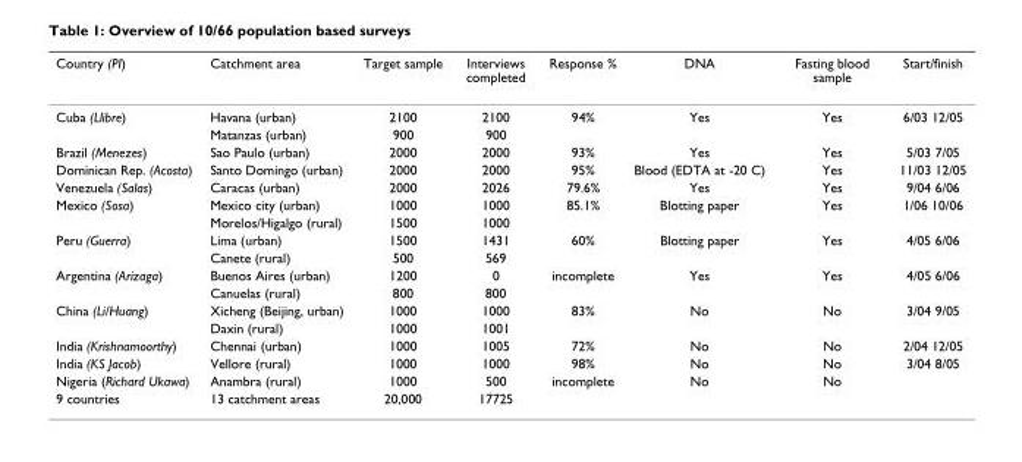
<table><thead><tr><td>Country (PI)</td><td>Catchment area</td><td>Target sample</td><td>Interviews completed</td><td>Response %</td><td>DNA</td><td>Fasting blood sample</td><td>Start/finish</td></tr></thead><tbody><tr><td rowspan="2">Cuba (Llibre)</td><td>Havana (urban)</td><td>2100</td><td>2100</td><td>94%</td><td>Yes</td><td>Yes</td><td>6/03 12/05</td></tr><tr><td>Matanzas (urban)</td><td>900</td><td>900</td><td></td><td></td><td></td><td></td></tr><tr><td>Brazil (Menezes)</td><td>Sao Paulo (urban)</td><td>2000</td><td>2000</td><td>93%</td><td>Yes</td><td>Yes</td><td>5/03 7/05</td></tr><tr><td>Dominican Rep. (Acosta)</td><td>Santo Domingo (urban)</td><td>2000</td><td>2000</td><td>95%</td><td>Blood (EDTA at -20 C)</td><td>Yes</td><td>11/03 12/05</td></tr><tr><td>Venezuela (Salas)</td><td>Caracas (urban)</td><td>2000</td><td>2026</td><td>79.6%</td><td>Yes</td><td>Yes</td><td>9/04 6/06</td></tr><tr><td rowspan="2">Mexico (Sosa)</td><td>Mexico city (urban)</td><td>1000</td><td>1000</td><td>85.1%</td><td>Blotting paper</td><td>Yes</td><td>1/06 10/06</td></tr><tr><td>Morelos/Higalgo (rural)</td><td>1500</td><td>1000</td><td></td><td></td><td></td><td></td></tr><tr><td rowspan="2">Peru (Guerra)</td><td>Lima (urban)</td><td>1500</td><td>1431</td><td>60%</td><td>Blotting paper</td><td>Yes</td><td>4/05 6/06</td></tr><tr><td>Canete (rural)</td><td>500</td><td>569</td><td></td><td></td><td></td><td></td></tr><tr><td rowspan="2">Argentina (Arizaga)</td><td>Buenos Aires (urban)</td><td>1200</td><td>0</td><td>incomplete</td><td>Yes</td><td>Yes</td><td>4/05 6/06</td></tr><tr><td>Canuelas (rural)</td><td>800</td><td>800</td><td></td><td></td><td></td><td></td></tr><tr><td rowspan="2">China (Li/Huang)</td><td>Xicheng (Beijing, urban)</td><td>1000</td><td>1000</td><td>83%</td><td>No</td><td>No</td><td>3/04 9/05</td></tr><tr><td>Daxin (rural)</td><td>1000</td><td>1001</td><td></td><td></td><td></td><td></td></tr><tr><td>India (Krishnamoorthy)</td><td>Chennai (urban)</td><td>1000</td><td>1005</td><td>72%</td><td>No</td><td>No</td><td>2/04 12/05</td></tr><tr><td>India (KS Jacob)</td><td>Vellore (rural)</td><td>1000</td><td>1000</td><td>98%</td><td>No</td><td>No</td><td>3/04 8/05</td></tr><tr><td>Nigeria (Richard Ukawa)</td><td>Anambra (rural)</td><td>1000</td><td>500</td><td>incomplete</td><td>No</td><td>No</td><td></td></tr><tr><td>9 countries</td><td>13 catchment areas</td><td>20,000</td><td>17725</td><td></td><td></td><td></td><td></td></tr></tbody></table>